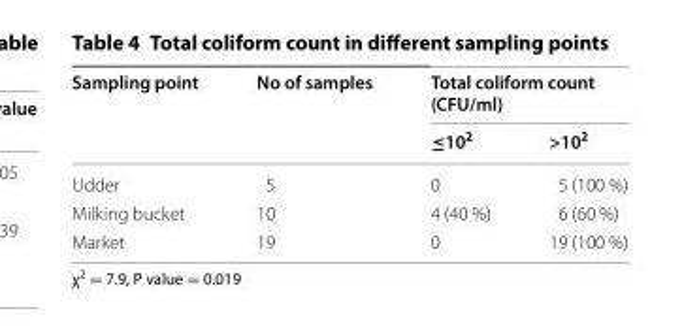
<table><thead><tr><td rowspan="2">Sampling point</td><td rowspan="2">No of samples</td><td colspan="2">Total coliform count (CFU/ml)</td></tr><tr><td>≤10<sup>2</sup></td><td>&gt;10<sup>2</sup></td></tr></thead><tbody><tr><td>Udder</td><td>5</td><td>0</td><td>5 (100 %)</td></tr><tr><td>Milking bucket</td><td>10</td><td>4 (40 %)</td><td>6 (60 %)</td></tr><tr><td>Market</td><td>19</td><td>0</td><td>19 (100 %)</td></tr></tbody></table>